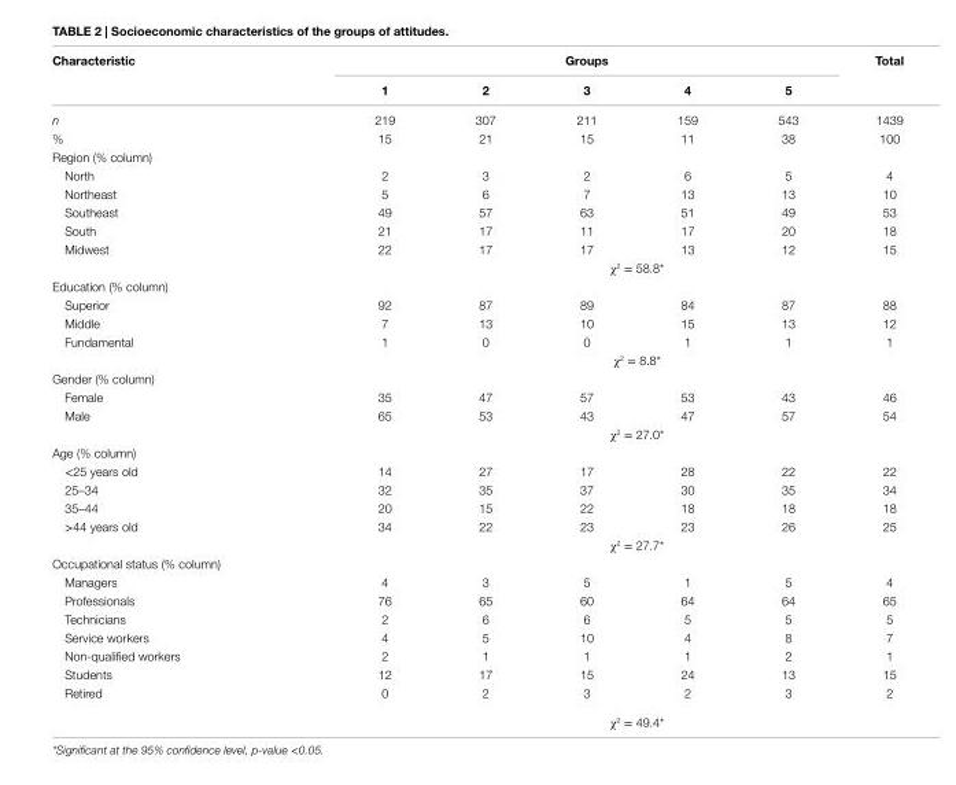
<table><thead><tr><td rowspan="2">characteristic</td><td colspan="5">groups</td><td rowspan="2">Total</td></tr><tr><td>1</td><td>2</td><td>3</td><td>4</td><td>5</td></tr></thead><tbody><tr><td>n</td><td>219</td><td>307</td><td>211</td><td>159</td><td>543</td><td>1439</td></tr><tr><td>%</td><td>15</td><td>21</td><td>15</td><td>11</td><td>38</td><td>100</td></tr><tr><td colspan="7">Region (% column)</td></tr><tr><td>North</td><td>2</td><td>3</td><td>2</td><td>6</td><td>5</td><td>4</td></tr><tr><td>Northeast</td><td>5</td><td>6</td><td>7</td><td>13</td><td>13</td><td>10</td></tr><tr><td>Southeast</td><td>49</td><td>57</td><td>63</td><td>51</td><td>49</td><td>53</td></tr><tr><td>South</td><td>21</td><td>17</td><td>11</td><td>17</td><td>20</td><td>18</td></tr><tr><td rowspan="2">Midwest</td><td>22</td><td>17</td><td>17</td><td>13</td><td>12</td><td>15</td></tr><tr><td colspan="6">χ<sup>2</sup> = 58.8*</td></tr><tr><td colspan="7">Education (% column)</td></tr><tr><td>Superior</td><td>92</td><td>87</td><td>89</td><td>84</td><td>87</td><td>88</td></tr><tr><td>Middle</td><td>7</td><td>13</td><td>10</td><td>15</td><td>13</td><td>12</td></tr><tr><td rowspan="2">Fundamental</td><td>1</td><td>0</td><td>0</td><td>1</td><td>1</td><td>1</td></tr><tr><td colspan="6">χ<sup>2</sup> = 8.8*</td></tr><tr><td colspan="7">Gender (% column)</td></tr><tr><td>Female</td><td>35</td><td>47</td><td>57</td><td>53</td><td>43</td><td>46</td></tr><tr><td rowspan="2">Male</td><td>65</td><td>53</td><td>43</td><td>47</td><td>57</td><td>54</td></tr><tr><td colspan="6">χ<sup>2</sup> = 27.0*</td></tr><tr><td colspan="7">Age (% column)</td></tr><tr><td>&lt;25 years old</td><td>14</td><td>27</td><td>17</td><td>28</td><td>22</td><td>22</td></tr><tr><td>25–34</td><td>32</td><td>35</td><td>37</td><td>30</td><td>35</td><td>34</td></tr><tr><td>35–44</td><td>20</td><td>15</td><td>22</td><td>18</td><td>18</td><td>18</td></tr><tr><td rowspan="2">&gt;44 years old</td><td>34</td><td>22</td><td>23</td><td>23</td><td>26</td><td>25</td></tr><tr><td colspan="6">χ<sup>2</sup> = 27.7*</td></tr><tr><td colspan="7">Occupational status (% column)</td></tr><tr><td>Managers</td><td>4</td><td>3</td><td>5</td><td>1</td><td>5</td><td>4</td></tr><tr><td>Professionals</td><td>76</td><td>65</td><td>60</td><td>64</td><td>64</td><td>65</td></tr><tr><td>Technicians</td><td>2</td><td>6</td><td>6</td><td>5</td><td>5</td><td>5</td></tr><tr><td>Service workers</td><td>4</td><td>5</td><td>10</td><td>4</td><td>8</td><td>7</td></tr><tr><td>Non-qualified workers</td><td>2</td><td>1</td><td>1</td><td>1</td><td>2</td><td>1</td></tr><tr><td>Students</td><td>12</td><td>17</td><td>15</td><td>24</td><td>13</td><td>15</td></tr><tr><td rowspan="2">Retired</td><td>0</td><td>2</td><td>3</td><td>2</td><td>3</td><td>2</td></tr><tr><td colspan="6">χ<sup>2</sup> = 49.4*</td></tr></tbody></table>